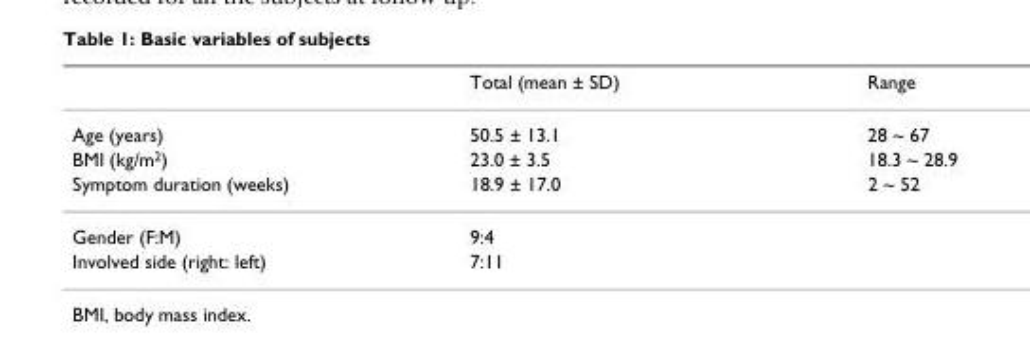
<table><thead><tr><td></td><td>Total (mean ± SD)</td><td>Range</td></tr></thead><tbody><tr><td>Age (years)</td><td>50.5 ± 13.1</td><td>28 ~ 67</td></tr><tr><td>BMI (kg/m2)</td><td>23.0 ± 3.5</td><td>18.3 ~ 28.9</td></tr><tr><td>Symptom duration (weeks)</td><td>18.9 ± 17.0</td><td>2 ~ 52</td></tr><tr><td>Gender (F:M)</td><td>9:4</td><td></td></tr><tr><td>Involved side (right: left)</td><td>7:11</td><td></td></tr></tbody></table>